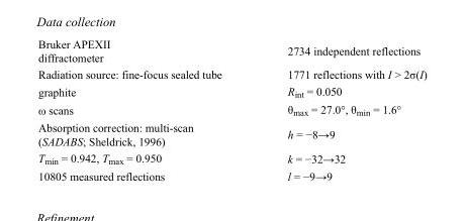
<table><tbody><tr><td>Bruker APEXII diffractometer</td><td>2734 independent reflections</td></tr><tr><td>Radiation source: fine-focus sealed tube</td><td>1771 reflections with I &gt; 2σ(I)</td></tr><tr><td>graphite</td><td>R<sub>int</sub> = 0.050</td></tr><tr><td>ω scans</td><td>θ<sub>max</sub> = 27.0°, θ<sub>min</sub> = 1.6°</td></tr><tr><td>Absorption correction: multi-scan (SADABS; Sheldrick, 1996)</td><td>h = −8→9</td></tr><tr><td>T<sub>min</sub> = 0.942, T<sub>max</sub> = 0.950</td><td>k = −32→32</td></tr><tr><td>10805 measured reflections</td><td>l = −9→9</td></tr></tbody></table>